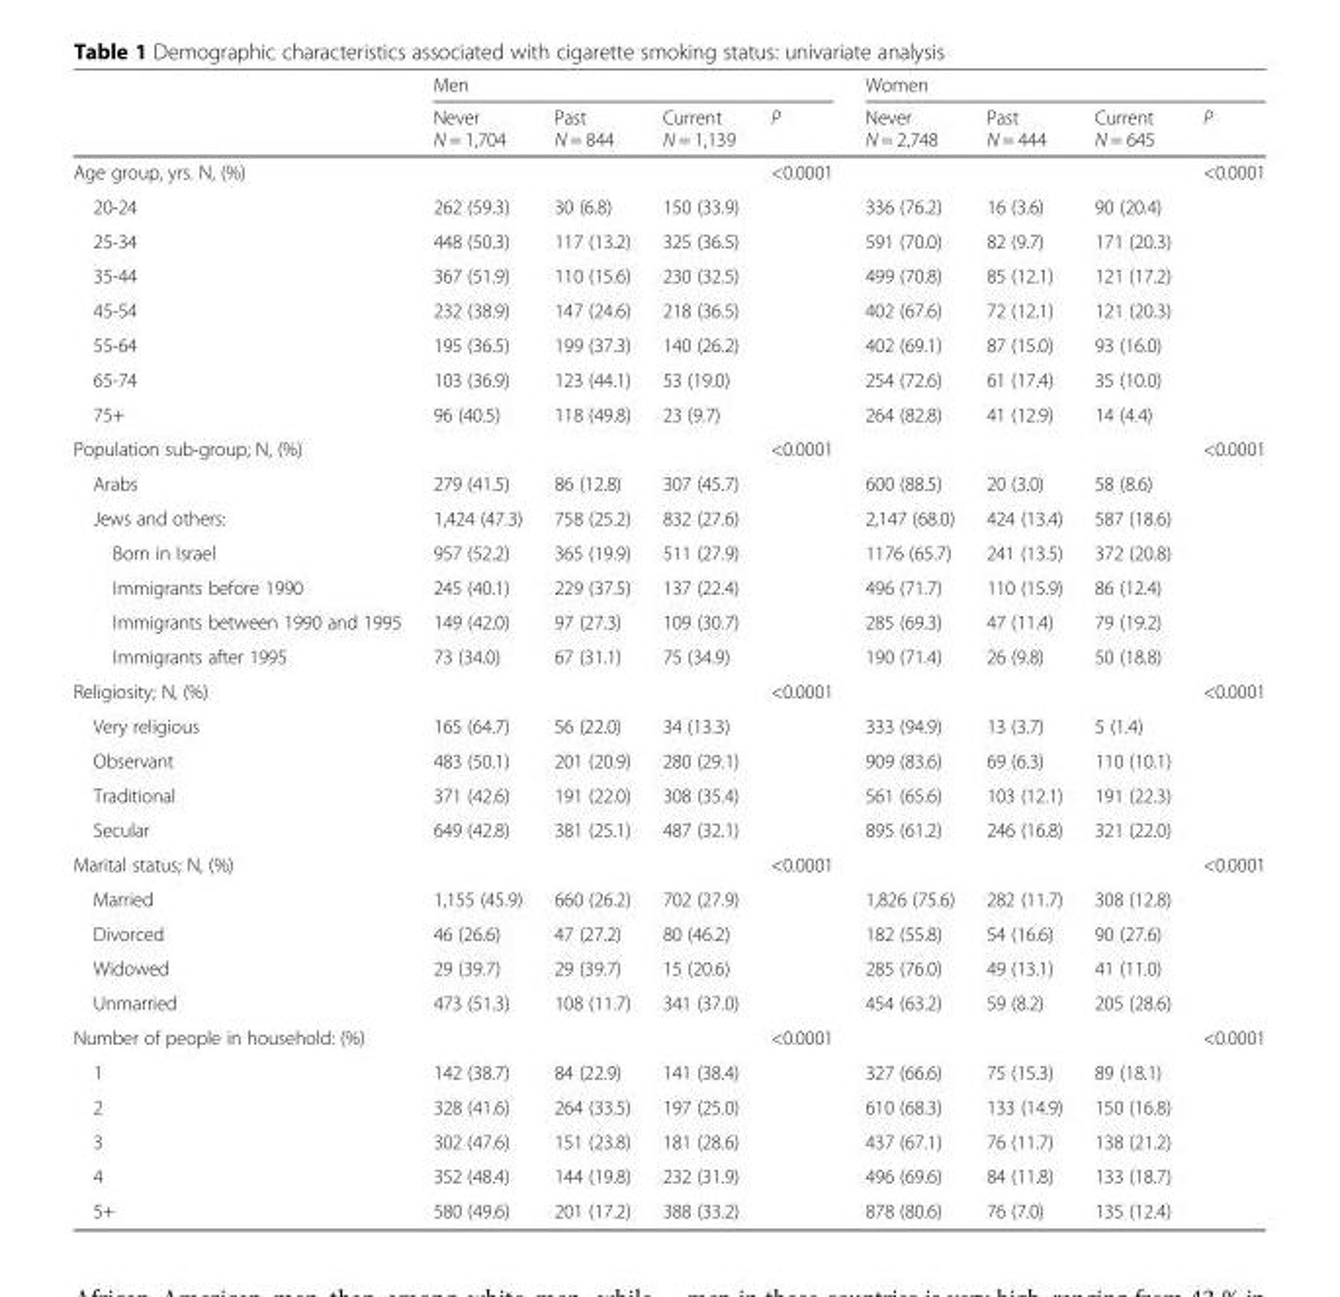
<table><thead><tr><td rowspan="2"></td><td colspan="4">Men</td><td colspan="4">Women</td></tr><tr><td>Never N = 1,704</td><td>Past N = 844</td><td>Current N = 1,139</td><td>P</td><td>Never N = 2,748</td><td>Past N = 444</td><td>Current N = 645</td><td>P</td></tr></thead><tbody><tr><td>Age group, yrs. N, (%)</td><td></td><td></td><td></td><td>&lt;0.0001</td><td></td><td></td><td></td><td>&lt;0.0001</td></tr><tr><td>20-24</td><td>262 (59.3)</td><td>30 (6.8)</td><td>150 (33.9)</td><td></td><td>336 (76.2)</td><td>16 (3.6)</td><td>90 (20.4)</td><td></td></tr><tr><td>25-34</td><td>448 (50.3)</td><td>117 (13.2)</td><td>325 (36.5)</td><td></td><td>591 (70.0)</td><td>82 (9.7)</td><td>171 (20.3)</td><td></td></tr><tr><td>35-44</td><td>367 (51.9)</td><td>110 (15.6)</td><td>230 (32.5)</td><td></td><td>499 (70.8)</td><td>85 (12.1)</td><td>121 (17.2)</td><td></td></tr><tr><td>45-54</td><td>232 (38.9)</td><td>147 (24.6)</td><td>218 (36.5)</td><td></td><td>402 (67.6)</td><td>72 (12.1)</td><td>121 (20.3)</td><td></td></tr><tr><td>55-64</td><td>195 (36.5)</td><td>199 (37.3)</td><td>140 (26.2)</td><td></td><td>402 (69.1)</td><td>87 (15.0)</td><td>93 (16.0)</td><td></td></tr><tr><td>65-74</td><td>103 (36.9)</td><td>123 (44.1)</td><td>53 (19.0)</td><td></td><td>254 (72.6)</td><td>61 (17.4)</td><td>35 (10.0)</td><td></td></tr><tr><td>75+</td><td>96 (40.5)</td><td>118 (49.8)</td><td>23 (9.7)</td><td></td><td>264 (82.8)</td><td>41 (12.9)</td><td>14 (4.4)</td><td></td></tr><tr><td>Population sub-group; N, (%)</td><td></td><td></td><td></td><td>&lt;0.0001</td><td></td><td></td><td></td><td>&lt;0.0001</td></tr><tr><td>Arabs</td><td>279 (41.5)</td><td>86 (12.8)</td><td>307 (45.7)</td><td></td><td>600 (88.5)</td><td>20 (3.0)</td><td>58 (8.6)</td><td></td></tr><tr><td>Jews and others:</td><td>1,424 (47.3)</td><td>758 (25.2)</td><td>832 (27.6)</td><td></td><td>2,147 (68.0)</td><td>424 (13.4)</td><td>587 (18.6)</td><td></td></tr><tr><td>Born in Israel</td><td>957 (52.2)</td><td>365 (19.9)</td><td>511 (27.9)</td><td></td><td>1176 (65.7)</td><td>241 (13.5)</td><td>372 (20.8)</td><td></td></tr><tr><td>Immigrants before 1990</td><td>245 (40.1)</td><td>229 (37.5)</td><td>137 (22.4)</td><td></td><td>496 (71.7)</td><td>110 (15.9)</td><td>86 (12.4)</td><td></td></tr><tr><td>Immigrants between 1990 and 1995</td><td>149 (42.0)</td><td>97 (27.3)</td><td>109 (30.7)</td><td></td><td>285 (69.3)</td><td>47 (11.4)</td><td>79 (19.2)</td><td></td></tr><tr><td>Immigrants after 1995</td><td>73 (34.0)</td><td>67 (31.1)</td><td>75 (34.9)</td><td></td><td>190 (71.4)</td><td>26 (9.8)</td><td>50 (18.8)</td><td></td></tr><tr><td>Religiosity; N, (%)</td><td></td><td></td><td></td><td>&lt;0.0001</td><td></td><td></td><td></td><td>&lt;0.0001</td></tr><tr><td>Very religious</td><td>165 (64.7)</td><td>56 (22.0)</td><td>34 (13.3)</td><td></td><td>333 (94.9)</td><td>13 (3.7)</td><td>5 (1.4)</td><td></td></tr><tr><td>Observant</td><td>483 (50.1)</td><td>201 (20.9)</td><td>280 (29.1)</td><td></td><td>909 (83.6)</td><td>69 (6.3)</td><td>110 (10.1)</td><td></td></tr><tr><td>Traditional</td><td>371 (42.6)</td><td>191 (22.0)</td><td>308 (35.4)</td><td></td><td>561 (65.6)</td><td>103 (12.1)</td><td>191 (22.3)</td><td></td></tr><tr><td>Secular</td><td>649 (42.8)</td><td>381 (25.1)</td><td>487 (32.1)</td><td></td><td>895 (61.2)</td><td>246 (16.8)</td><td>321 (22.0)</td><td></td></tr><tr><td>Marital status; N, (%)</td><td></td><td></td><td></td><td>&lt;0.0001</td><td></td><td></td><td></td><td>&lt;0.0001</td></tr><tr><td>Married</td><td>1,155 (45.9)</td><td>660 (26.2)</td><td>702 (27.9)</td><td></td><td>1,826 (75.6)</td><td>282 (11.7)</td><td>308 (12.8)</td><td></td></tr><tr><td>Divorced</td><td>46 (26.6)</td><td>47 (27.2)</td><td>80 (46.2)</td><td></td><td>182 (55.8)</td><td>54 (16.6)</td><td>90 (27.6)</td><td></td></tr><tr><td>Widowed</td><td>29 (39.7)</td><td>29 (39.7)</td><td>15 (20.6)</td><td></td><td>285 (76.0)</td><td>49 (13.1)</td><td>41 (11.0)</td><td></td></tr><tr><td>Unmarried</td><td>473 (51.3)</td><td>108 (11.7)</td><td>341 (37.0)</td><td></td><td>454 (63.2)</td><td>59 (8.2)</td><td>205 (28.6)</td><td></td></tr><tr><td>Number of people in household: (%)</td><td></td><td></td><td></td><td>&lt;0.0001</td><td></td><td></td><td></td><td>&lt;0.0001</td></tr><tr><td>1</td><td>142 (38.7)</td><td>84 (22.9)</td><td>141 (38.4)</td><td></td><td>327 (66.6)</td><td>75 (15.3)</td><td>89 (18.1)</td><td></td></tr><tr><td>2</td><td>328 (41.6)</td><td>264 (33.5)</td><td>197 (25.0)</td><td></td><td>610 (68.3)</td><td>133 (14.9)</td><td>150 (16.8)</td><td></td></tr><tr><td>3</td><td>302 (47.6)</td><td>151 (23.8)</td><td>181 (28.6)</td><td></td><td>437 (67.1)</td><td>76 (11.7)</td><td>138 (21.2)</td><td></td></tr><tr><td>4</td><td>352 (48.4)</td><td>144 (19.8)</td><td>232 (31.9)</td><td></td><td>496 (69.6)</td><td>84 (11.8)</td><td>133 (18.7)</td><td></td></tr><tr><td>5+</td><td>580 (49.6)</td><td>201 (17.2)</td><td>388 (33.2)</td><td></td><td>878 (80.6)</td><td>76 (7.0)</td><td>135 (12.4)</td><td></td></tr></tbody></table>